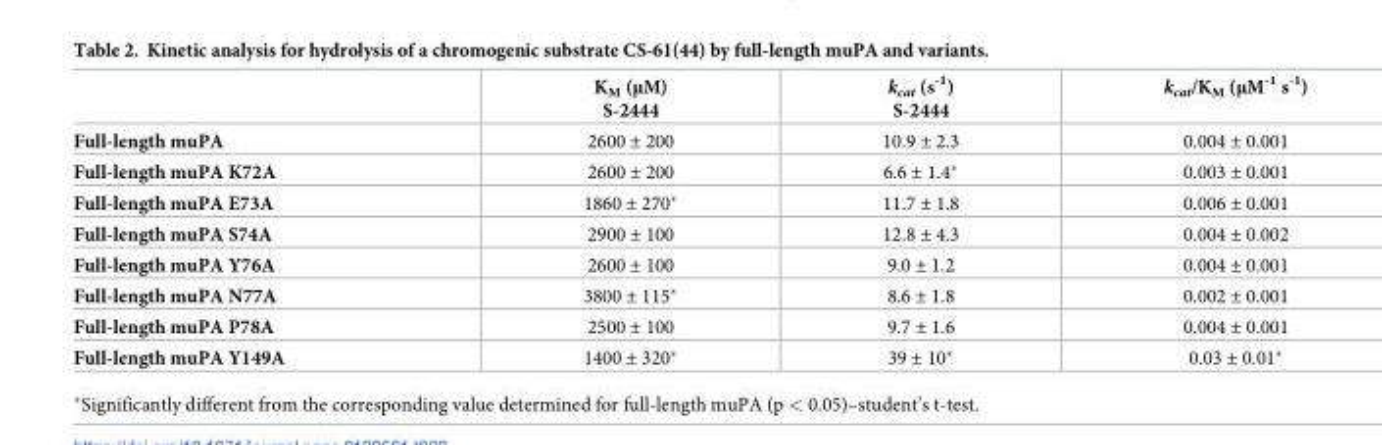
<table><thead><tr><td></td><td>K<sub>M</sub> (μM) S-2444</td><td>k<sub>cat</sub> (s<sup>-1</sup>) S-2444</td><td>k<sub>cat</sub>/K<sub>M</sub> (μM<sup>-1</sup> s<sup>-1</sup>)</td></tr></thead><tbody><tr><td>Full-length muPA</td><td>2600 ± 200</td><td>10.9 ± 2.3</td><td>0.004 ± 0.001</td></tr><tr><td>Full-length muPA K72A</td><td>2600 ± 200</td><td>6.6 ± 1.4*</td><td>0.003 ± 0.001</td></tr><tr><td>Full-length muPA E73A</td><td>1860 ± 270*</td><td>11.7 ± 1.8</td><td>0.006 ± 0.001</td></tr><tr><td>Full-length muPA S74A</td><td>2900 ± 100</td><td>12.8 ± 4.3</td><td>0.004 ± 0.002</td></tr><tr><td>Full-length muPA Y76A</td><td>2600 ± 100</td><td>9.0 ± 1.2</td><td>0.004 ± 0.001</td></tr><tr><td>Full-length muPA N77A</td><td>3800 ± 115*</td><td>8.6 ± 1.8</td><td>0.002 ± 0.001</td></tr><tr><td>Full-length muPA P78A</td><td>2500 ± 100</td><td>9.7 ± 1.6</td><td>0.004 ± 0.001</td></tr><tr><td>Full-length muPA Y149A</td><td>1400 ± 320*</td><td>39 ± 10*</td><td>0.03 ± 0.01*</td></tr></tbody></table>